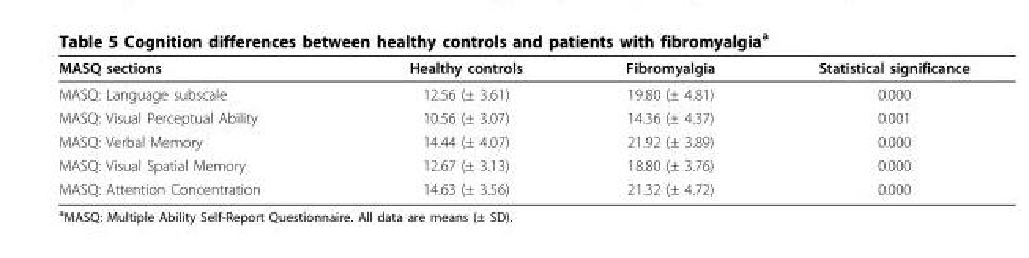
<table><thead><tr><td>MASQ sections</td><td>Healthy controls</td><td>Fibromyalgia</td><td>Statistical significance</td></tr></thead><tbody><tr><td>MASQ: Language subscale</td><td>12.56 (± 3.61)</td><td>19.80 (± 4.81)</td><td>0.000</td></tr><tr><td>MASQ: Visual Perceptual Ability</td><td>10.56 (± 3.07)</td><td>14.36 (± 4.37)</td><td>0.001</td></tr><tr><td>MASQ: Verbal Memory</td><td>14.44 (± 4.07)</td><td>21.92 (± 3.89)</td><td>0.000</td></tr><tr><td>MASQ: Visual Spatial Memory</td><td>12.67 (± 3.13)</td><td>18.80 (± 3.76)</td><td>0.000</td></tr><tr><td>MASQ: Attention Concentration</td><td>14.63 (± 3.56)</td><td>21.32 (± 4.72)</td><td>0.000</td></tr></tbody></table>